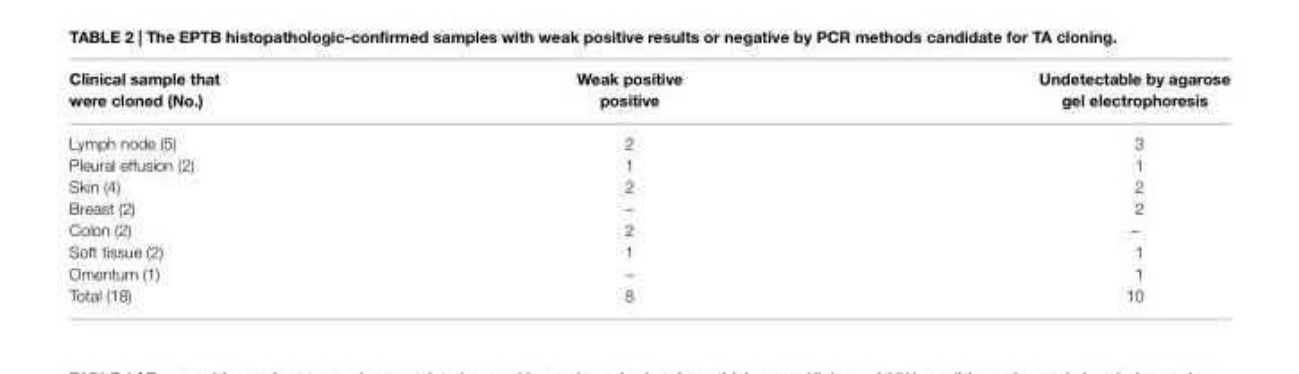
<table><thead><tr><td>Clinical sample that were cloned (No.)</td><td>Weak positive positive</td><td>Undetectable by agarose gel electrophoresis</td></tr></thead><tbody><tr><td>Lymph node (5)</td><td>2</td><td>3</td></tr><tr><td>Pleural effusion (2)</td><td>1</td><td>1</td></tr><tr><td>Skin (4)</td><td>2</td><td>2</td></tr><tr><td>Breast (2)</td><td>–</td><td>2</td></tr><tr><td>Colon (2)</td><td>2</td><td>–</td></tr><tr><td>Soft tissue (2)</td><td>1</td><td>1</td></tr><tr><td>Omentum (1)</td><td>–</td><td>1</td></tr><tr><td>Total (18)</td><td>8</td><td>10</td></tr></tbody></table>